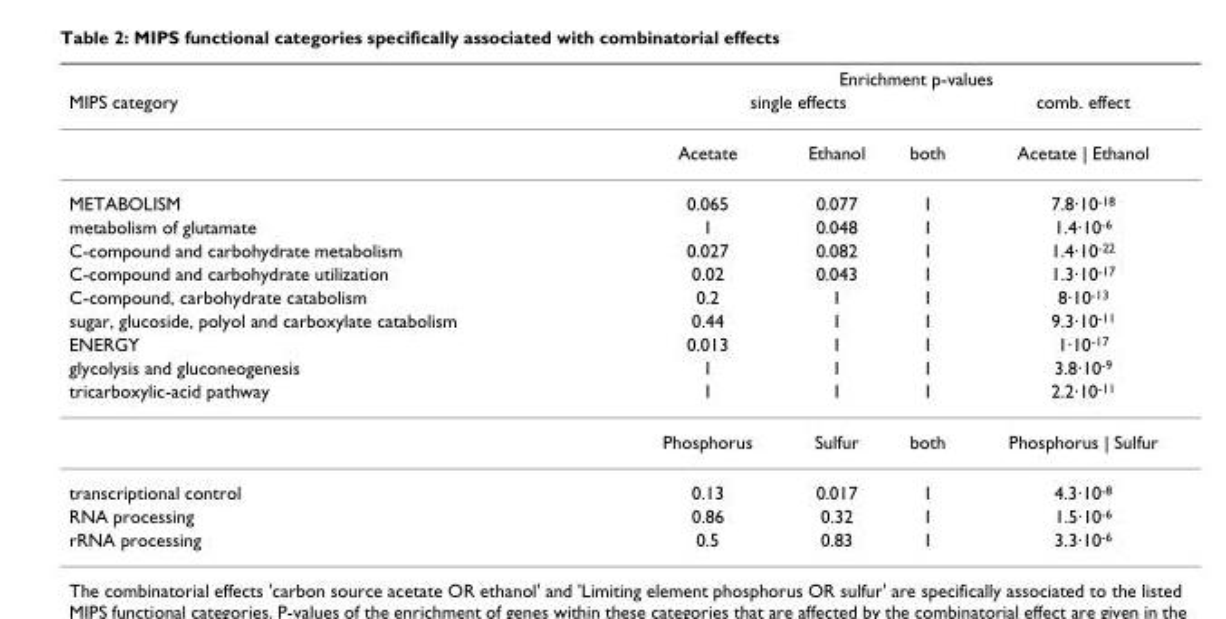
<table><thead><tr><td rowspan="3">MIPS category</td><td colspan="4">Enrichment p-values</td></tr><tr><td colspan="3">single effects</td><td rowspan="2">comb. effect Acetate | Ethanol</td></tr><tr><td>Acetate</td><td>Ethanol</td><td>both</td></tr></thead><tbody><tr><td>METABOLISM</td><td>0.065</td><td>0.077</td><td>1</td><td>7.8·10<sup>-18</sup></td></tr><tr><td>metabolism of glutamate</td><td>1</td><td>0.048</td><td>1</td><td>1.4·10<sup>-6</sup></td></tr><tr><td>C-compound and carbohydrate metabolism</td><td>0.027</td><td>0.082</td><td>1</td><td>1.4·10<sup>-22</sup></td></tr><tr><td>C-compound and carbohydrate utilization</td><td>0.02</td><td>0.043</td><td>1</td><td>1.3·10<sup>-17</sup></td></tr><tr><td>C-compound, carbohydrate catabolism</td><td>0.2</td><td>1</td><td>1</td><td>8·10<sup>-13</sup></td></tr><tr><td>sugar, glucoside, polyol and carboxylate catabolism</td><td>0.44</td><td>1</td><td>1</td><td>9.3·10<sup>-11</sup></td></tr><tr><td>ENERGY</td><td>0.013</td><td>1</td><td>1</td><td>1·10<sup>-17</sup></td></tr><tr><td>glycolysis and gluconeogenesis</td><td>1</td><td>1</td><td>1</td><td>3.8·10<sup>-9</sup></td></tr><tr><td rowspan="2">tricarboxylic-acid pathway</td><td>1</td><td>1</td><td>1</td><td>2.2·10<sup>-11</sup></td></tr><tr><td>Phosphorus</td><td>Sulfur</td><td>both</td><td>Phosphorus | Sulfur</td></tr><tr><td>transcriptional control</td><td>0.13</td><td>0.017</td><td>1</td><td>4.3·10<sup>-8</sup></td></tr><tr><td>RNA processing</td><td>0.86</td><td>0.32</td><td>1</td><td>1.5·10<sup>-6</sup></td></tr><tr><td>rRNA processing</td><td>0.5</td><td>0.83</td><td>1</td><td>3.3·10<sup>-6</sup></td></tr></tbody></table>